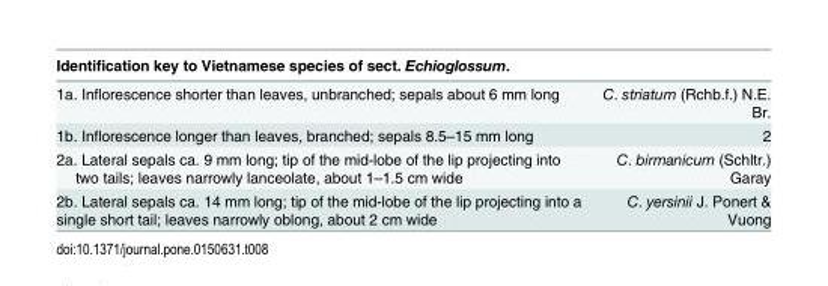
<table><thead><tr><td>Identification key to Vietnamese species of sect. Echioglossum.</td><td></td></tr></thead><tbody><tr><td>1a. Inflorescence shorter than leaves, unbranched; sepals about 6 mm long</td><td>C. striatum (Rchb.f.) N.E. Br.</td></tr><tr><td>1b. Inflorescence longer than leaves, branched; sepals 8.5–15 mm long</td><td>2</td></tr><tr><td>2a. Lateral sepals ca. 9 mm long; tip of the mid-lobe of the lip projecting into two tails; leaves narrowly lanceolate, about 1–1.5 cm wide</td><td>C. birmanicum (Schltr.) Garay</td></tr><tr><td>2b. Lateral sepals ca. 14 mm long; tip of the mid-lobe of the lip projecting into a single short tail; leaves narrowly oblong, about 2 cm wide</td><td>C. yersinii J. Ponert &amp; Vuong</td></tr></tbody></table>